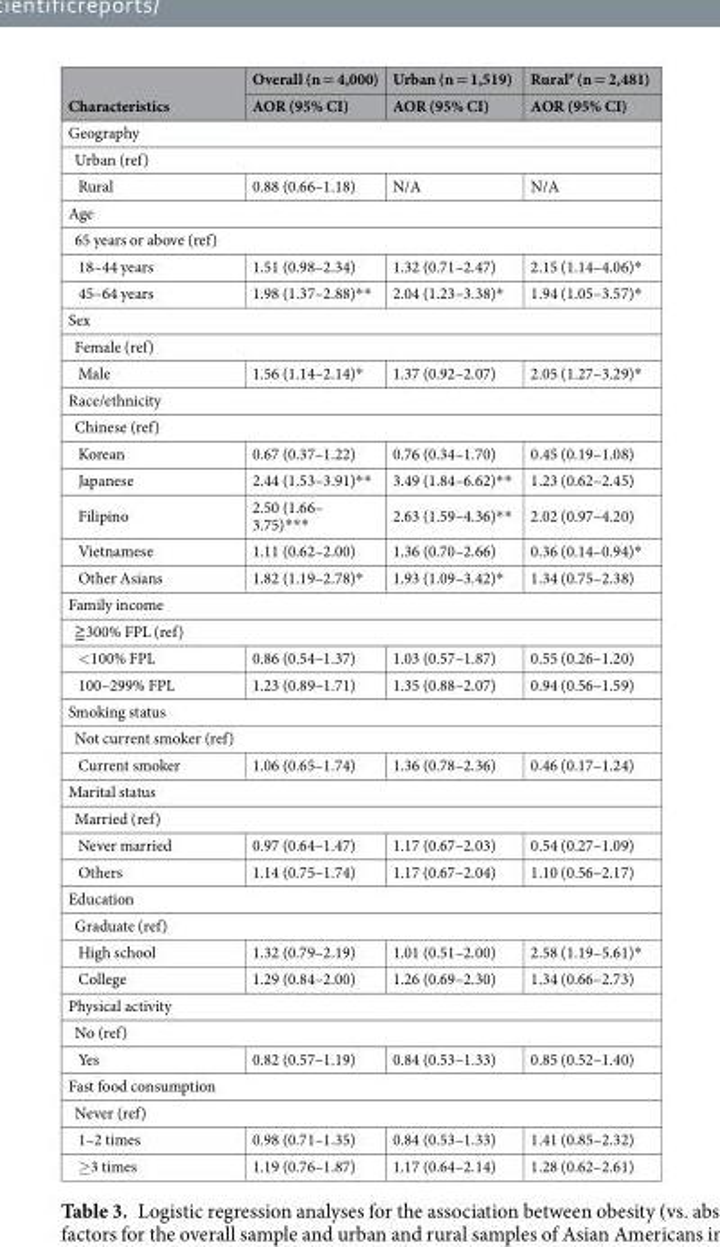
<table><thead><tr><td rowspan="2">Characteristics</td><td rowspan="2">Overall (n = 4,000) AOR (95% CI)</td><td rowspan="2">Urban (n = 1,519) AOR (95% CI)</td><td rowspan="2">Rural<sup>#</sup> (n = 2,481) AOR (95% CI)</td></tr><tr></tr></thead><tbody><tr><td colspan="4">Geography</td></tr><tr><td colspan="4">Urban (ref)</td></tr><tr><td>Rural</td><td>0.88 (0.66–1.18)</td><td>N/A</td><td>N/A</td></tr><tr><td colspan="4">Age</td></tr><tr><td colspan="4">65 years or above (ref)</td></tr><tr><td>18–44 years</td><td>1.51 (0.98–2.34)</td><td>1.32 (0.71–2.47)</td><td>2.15 (1.14–4.06)*</td></tr><tr><td>45–64 years</td><td>1.98 (1.37–2.88)**</td><td>2.04 (1.23–3.38)*</td><td>1.94 (1.05–3.57)*</td></tr><tr><td colspan="4">Sex</td></tr><tr><td colspan="4">Female (ref)</td></tr><tr><td>Male</td><td>1.56 (1.14–2.14)*</td><td>1.37 (0.92–2.07)</td><td>2.05 (1.27–3.29)*</td></tr><tr><td colspan="4">Race/ethnicity</td></tr><tr><td colspan="4">Chinese (ref)</td></tr><tr><td>Korean</td><td>0.67 (0.37–1.22)</td><td>0.76 (0.34–1.70)</td><td>0.45 (0.19–1.08)</td></tr><tr><td>Japanese</td><td>2.44 (1.53–3.91)**</td><td>3.49 (1.84–6.62)**</td><td>1.23 (0.62–2.45)</td></tr><tr><td>Filipino</td><td>2.50 (1.66– 3.75)***</td><td>2.63 (1.59–4.36)**</td><td>2.02 (0.97–4.20)</td></tr><tr><td>Vietnamese</td><td>1.11 (0.62–2.00)</td><td>1.36 (0.70–2.66)</td><td>0.36 (0.14–0.94)*</td></tr><tr><td>Other Asians</td><td>1.82 (1.19–2.78)*</td><td>1.93 (1.09–3.42)*</td><td>1.34 (0.75–2.38)</td></tr><tr><td colspan="4">Family income</td></tr><tr><td colspan="4">≧300% FPL (ref)</td></tr><tr><td>&lt;100% FPL</td><td>0.86 (0.54–1.37)</td><td>1.03 (0.57–1.87)</td><td>0.55 (0.26–1.20)</td></tr><tr><td>100–299% FPL</td><td>1.23 (0.89–1.71)</td><td>1.35 (0.88–2.07)</td><td>0.94 (0.56–1.59)</td></tr><tr><td colspan="4">Smoking status</td></tr><tr><td colspan="4">Not current smoker (ref)</td></tr><tr><td>Current smoker</td><td>1.06 (0.65–1.74)</td><td>1.36 (0.78–2.36)</td><td>0.46 (0.17–1.24)</td></tr><tr><td colspan="4">Marital status</td></tr><tr><td colspan="4">Married (ref)</td></tr><tr><td>Never married</td><td>0.97 (0.64–1.47)</td><td>1.17 (0.67–2.03)</td><td>0.54 (0.27–1.09)</td></tr><tr><td>Others</td><td>1.14 (0.75–1.74)</td><td>1.17 (0.67–2.04)</td><td>1.10 (0.56–2.17)</td></tr><tr><td colspan="4">Education</td></tr><tr><td colspan="4">Graduate (ref)</td></tr><tr><td>High school</td><td>1.32 (0.79–2.19)</td><td>1.01 (0.51–2.00)</td><td>2.58 (1.19–5.61)*</td></tr><tr><td>College</td><td>1.29 (0.84–2.00)</td><td>1.26 (0.69–2.30)</td><td>1.34 (0.66–2.73)</td></tr><tr><td colspan="4">Physical activity</td></tr><tr><td colspan="4">No (ref)</td></tr><tr><td>Yes</td><td>0.82 (0.57–1.19)</td><td>0.84 (0.53–1.33)</td><td>0.85 (0.52–1.40)</td></tr><tr><td colspan="4">Fast food consumption</td></tr><tr><td colspan="4">Never (ref)</td></tr><tr><td>1–2 times</td><td>0.98 (0.71–1.35)</td><td>0.84 (0.53–1.33)</td><td>1.41 (0.85–2.32)</td></tr><tr><td>≥3 times</td><td>1.19 (0.76–1.87)</td><td>1.17 (0.64–2.14)</td><td>1.28 (0.62–2.61)</td></tr></tbody></table>